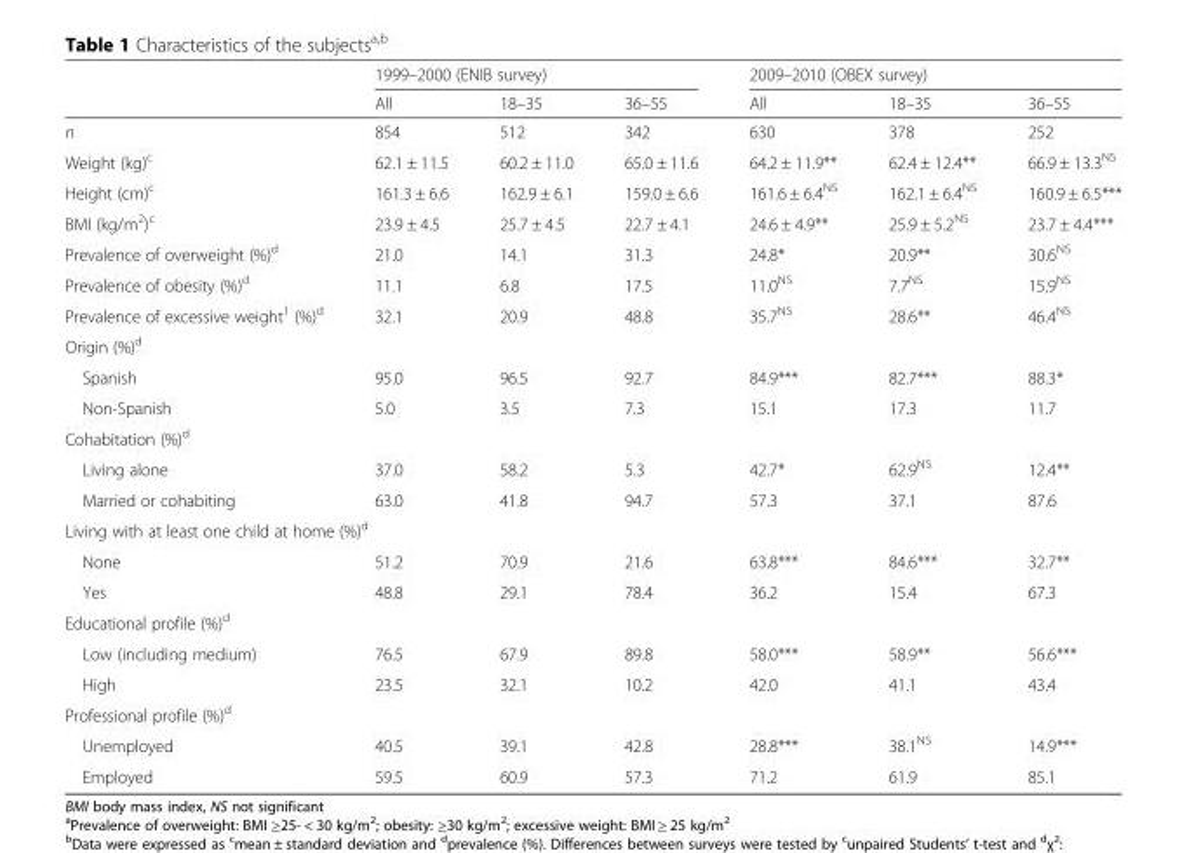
<table><thead><tr><td rowspan="2"></td><td colspan="3">1999–2000 (ENIB survey)</td><td colspan="3">2009–2010 (OBEX survey)</td></tr><tr><td>All</td><td>18–35</td><td>36–55</td><td>All</td><td>18–35</td><td>36–55</td></tr></thead><tbody><tr><td>n</td><td>854</td><td>512</td><td>342</td><td>630</td><td>378</td><td>252</td></tr><tr><td>Weight (kg)<sup>c</sup></td><td>62.1 ± 11.5</td><td>60.2 ± 11.0</td><td>65.0 ± 11.6</td><td>64.2 ± 11.9**</td><td>62.4 ± 12.4**</td><td>66.9 ± 13.3<sup>NS</sup></td></tr><tr><td>Height (cm)<sup>c</sup></td><td>161.3 ± 6.6</td><td>162.9 ± 6.1</td><td>159.0 ± 6.6</td><td>161.6 ± 6.4<sup>NS</sup></td><td>162.1 ± 6.4<sup>NS</sup></td><td>160.9 ± 6.5***</td></tr><tr><td>BMI (kg/m<sup>2</sup>)<sup>c</sup></td><td>23.9 ± 4.5</td><td>25.7 ± 4.5</td><td>22.7 ± 4.1</td><td>24.6 ± 4.9**</td><td>25.9 ± 5.2<sup>NS</sup></td><td>23.7 ± 4.4***</td></tr><tr><td>Prevalence of overweight (%)<sup>d</sup></td><td>21.0</td><td>14.1</td><td>31.3</td><td>24.8*</td><td>20.9**</td><td>30.6<sup>NS</sup></td></tr><tr><td>Prevalence of obesity (%)<sup>d</sup></td><td>11.1</td><td>6.8</td><td>17.5</td><td>11.0<sup>NS</sup></td><td>7.7<sup>NS</sup></td><td>15.9<sup>NS</sup></td></tr><tr><td>Prevalence of excessive weight<sup>1</sup> (%)<sup>d</sup></td><td>32.1</td><td>20.9</td><td>48.8</td><td>35.7<sup>NS</sup></td><td>28.6**</td><td>46.4<sup>NS</sup></td></tr><tr><td colspan="7">Origin (%)<sup>d</sup></td></tr><tr><td>Spanish</td><td>95.0</td><td>96.5</td><td>92.7</td><td>84.9***</td><td>82.7***</td><td>88.3*</td></tr><tr><td>Non-Spanish</td><td>5.0</td><td>3.5</td><td>7.3</td><td>15.1</td><td>17.3</td><td>11.7</td></tr><tr><td colspan="7">Cohabitation (%)<sup>d</sup></td></tr><tr><td>Living alone</td><td>37.0</td><td>58.2</td><td>5.3</td><td>42.7*</td><td>62.9<sup>NS</sup></td><td>12.4**</td></tr><tr><td>Married or cohabiting</td><td>63.0</td><td>41.8</td><td>94.7</td><td>57.3</td><td>37.1</td><td>87.6</td></tr><tr><td colspan="7">Living with at least one child at home (%)<sup>d</sup></td></tr><tr><td>None</td><td>51.2</td><td>70.9</td><td>21.6</td><td>63.8***</td><td>84.6***</td><td>32.7**</td></tr><tr><td>Yes</td><td>48.8</td><td>29.1</td><td>78.4</td><td>36.2</td><td>15.4</td><td>67.3</td></tr><tr><td colspan="7">Educational profile (%)<sup>d</sup></td></tr><tr><td>Low (including medium)</td><td>76.5</td><td>67.9</td><td>89.8</td><td>58.0***</td><td>58.9**</td><td>56.6***</td></tr><tr><td>High</td><td>23.5</td><td>32.1</td><td>10.2</td><td>42.0</td><td>41.1</td><td>43.4</td></tr><tr><td colspan="7">Professional profile (%)<sup>d</sup></td></tr><tr><td>Unemployed</td><td>40.5</td><td>39.1</td><td>42.8</td><td>28.8***</td><td>38.1<sup>NS</sup></td><td>14.9***</td></tr><tr><td>Employed</td><td>59.5</td><td>60.9</td><td>57.3</td><td>71.2</td><td>61.9</td><td>85.1</td></tr></tbody></table>